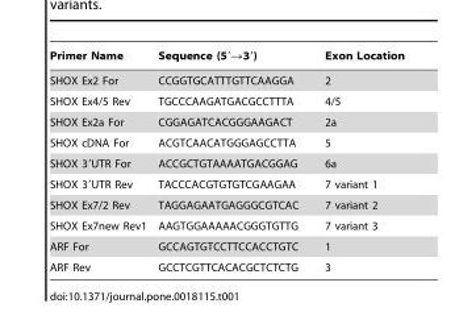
<table><thead><tr><td>Primer Name</td><td>Sequence (5′→3′)</td><td>Exon Location</td></tr></thead><tbody><tr><td>SHOX Ex2 For</td><td>CCGGTGCATTTGTTCAAGGA</td><td>2</td></tr><tr><td>SHOX Ex4/5 Rev</td><td>TGCCCAAGATGACGCCTTTA</td><td>4/5</td></tr><tr><td>SHOX Ex2a For</td><td>CGGAGATCACGGGAAGACT</td><td>2a</td></tr><tr><td>SHOX cDNA For</td><td>ACGTCAACATGGGAGCCTTA</td><td>5</td></tr><tr><td>SHOX 3′UTR For</td><td>ACCGCTGTAAAATGACGGAG</td><td>6a</td></tr><tr><td>SHOX 3′UTR Rev</td><td>TACCCACGTGTGTCGAAGAA</td><td>7 variant 1</td></tr><tr><td>SHOX Ex7/2 Rev</td><td>TAGGAGAATGAGGGCGTCAC</td><td>7 variant 2</td></tr><tr><td>SHOX Ex7new Rev1</td><td>AAGTGGAAAAACGGGTGTTG</td><td>7 variant 3</td></tr><tr><td>ARF For</td><td>GCCAGTGTCCTTCCACCTGTC</td><td>1</td></tr><tr><td>ARF Rev</td><td>GCCTCGTTCACACGCTCTCTG</td><td>3</td></tr></tbody></table>